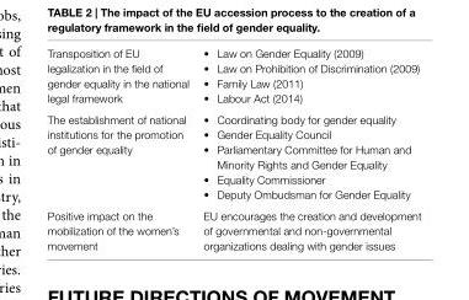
<table><tbody><tr><td>Transposition of EU legalization in the field of gender equality in the national legal framework</td><td>• Law on Gender Equality (2009) • Law on Prohibition of Discrimination (2009) • Family Law (2011) • Labour Act (2014)</td></tr><tr><td>The establishment of national institutions for the promotion of gender equality</td><td>• Coordinating body for gender equality • Gender Equality Council • Parliamentary Committee for Human and Minority Rights and Gender Equality • Equality Commissioner • Deputy Ombudsman for Gender Equality</td></tr><tr><td>Positive impact on the mobilization of the women’s movement</td><td>EU encourages the creation and development of governmental and non-governmental organizations dealing with gender issues</td></tr></tbody></table>